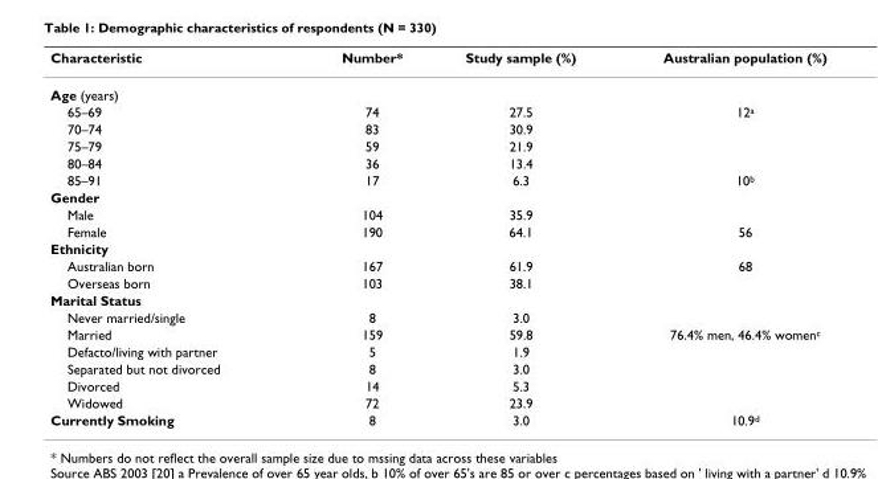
<table><thead><tr><td>Characteristic</td><td>Number*</td><td>Study sample (%)</td><td>Australian population (%)</td></tr></thead><tbody><tr><td colspan="4">Age (years)</td></tr><tr><td>65–69</td><td>74</td><td>27.5</td><td>12a</td></tr><tr><td>70–74</td><td>83</td><td>30.9</td><td></td></tr><tr><td>75–79</td><td>59</td><td>21.9</td><td></td></tr><tr><td>80–84</td><td>36</td><td>13.4</td><td></td></tr><tr><td>85–91</td><td>17</td><td>6.3</td><td>10b</td></tr><tr><td colspan="4">Gender</td></tr><tr><td>Male</td><td>104</td><td>35.9</td><td></td></tr><tr><td>Female</td><td>190</td><td>64.1</td><td>56</td></tr><tr><td colspan="4">Ethnicity</td></tr><tr><td>Australian born</td><td>167</td><td>61.9</td><td>68</td></tr><tr><td>Overseas born</td><td>103</td><td>38.1</td><td></td></tr><tr><td colspan="4">Marital Status</td></tr><tr><td>Never married/single</td><td>8</td><td>3.0</td><td></td></tr><tr><td>Married</td><td>159</td><td>59.8</td><td>76.4% men, 46.4% womenc</td></tr><tr><td>Defacto/living with partner</td><td>5</td><td>1.9</td><td></td></tr><tr><td>Separated but not divorced</td><td>8</td><td>3.0</td><td></td></tr><tr><td>Divorced</td><td>14</td><td>5.3</td><td></td></tr><tr><td>Widowed</td><td>72</td><td>23.9</td><td></td></tr><tr><td>Currently Smoking</td><td>8</td><td>3.0</td><td>10.9d</td></tr></tbody></table>